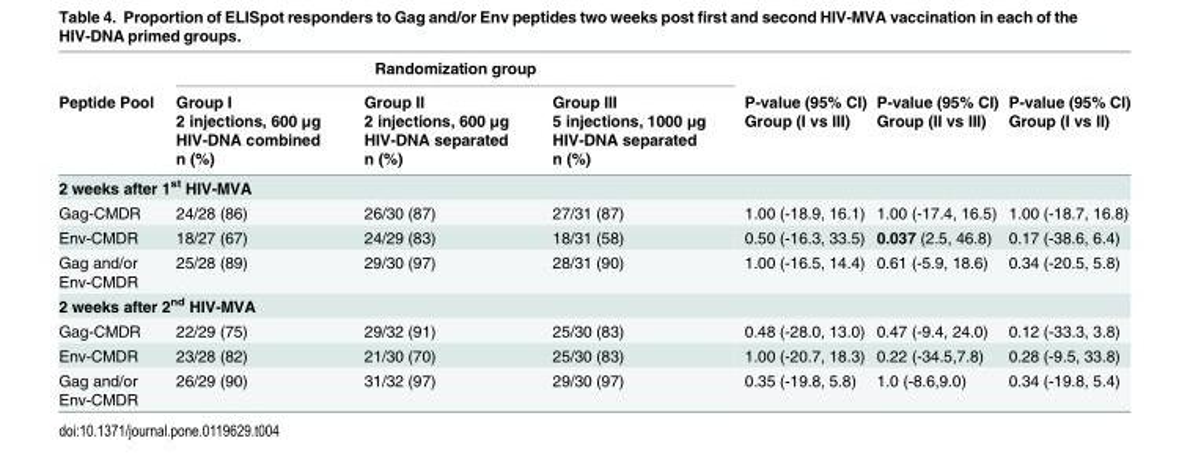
<table><thead><tr><td rowspan="4">Peptide Pool</td><td colspan="3">Randomization group</td><td rowspan="4">P-value (95% CI) Group (I vs III)</td><td rowspan="4">P-value (95% CI) Group (II vs III)</td><td rowspan="4">P-value (95% CI) Group (I vs II)</td></tr><tr><td rowspan="3">Group I 2 injections, 600 μg HIV-DNA combined n (%)</td><td rowspan="3">Group II 2 injections, 600 μg HIV-DNA separated n (%)</td><td rowspan="3">Group III 5 injections, 1000 μg HIV-DNA separated n (%)</td></tr><tr></tr><tr></tr></thead><tbody><tr><td colspan="7">2 weeks after 1<sup>st</sup> HIV-MVA</td></tr><tr><td>Gag-CMDR</td><td>24/28 (86)</td><td>26/30 (87)</td><td>27/31 (87)</td><td>1.00 (-18.9, 16.1)</td><td>1.00 (-17.4, 16.5)</td><td>1.00 (-18.7, 16.8)</td></tr><tr><td>Env-CMDR</td><td>18/27 (67)</td><td>24/29 (83)</td><td>18/31 (58)</td><td>0.50 (-16.3, 33.5)</td><td>0.037 (2.5, 46.8)</td><td>0.17 (-38.6, 6.4)</td></tr><tr><td>Gag and/or Env-CMDR</td><td>25/28 (89)</td><td>29/30 (97)</td><td>28/31 (90)</td><td>1.00 (-16.5, 14.4)</td><td>0.61 (-5.9, 18.6)</td><td>0.34 (-20.5, 5.8)</td></tr><tr><td colspan="7">2 weeks after 2<sup>nd</sup> HIV-MVA</td></tr><tr><td>Gag-CMDR</td><td>22/29 (75)</td><td>29/32 (91)</td><td>25/30 (83)</td><td>0.48 (-28.0, 13.0)</td><td>0.47 (-9.4, 24.0)</td><td>0.12 (-33.3, 3.8)</td></tr><tr><td>Env-CMDR</td><td>23/28 (82)</td><td>21/30 (70)</td><td>25/30 (83)</td><td>1.00 (-20.7, 18.3)</td><td>0.22 (-34.5,7.8)</td><td>0.28 (-9.5, 33.8)</td></tr><tr><td>Gag and/or Env-CMDR</td><td>26/29 (90)</td><td>31/32 (97)</td><td>29/30 (97)</td><td>0.35 (-19.8, 5.8)</td><td>1.0 (-8.6,9.0)</td><td>0.34 (-19.8, 5.4)</td></tr></tbody></table>